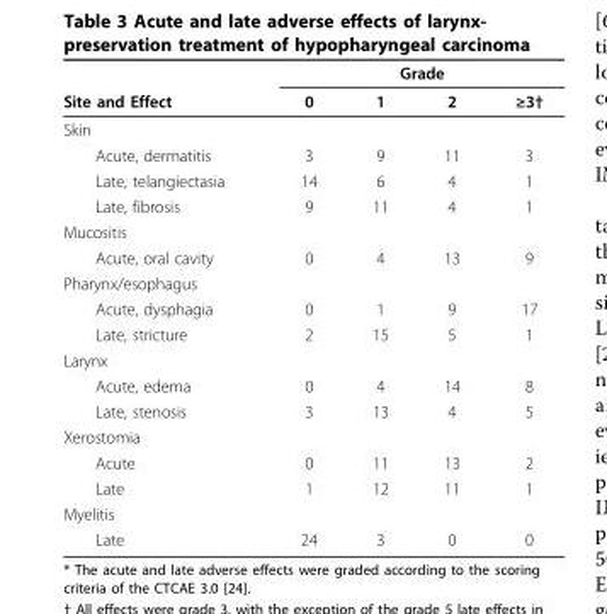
<table><thead><tr><td rowspan="2">Site and Effect</td><td colspan="4">Grade</td></tr><tr><td>0</td><td>1</td><td>2</td><td>≥3†</td></tr></thead><tbody><tr><td colspan="5">Skin</td></tr><tr><td>Acute, dermatitis</td><td>3</td><td>9</td><td>11</td><td>3</td></tr><tr><td>Late, telangiectasia</td><td>14</td><td>6</td><td>4</td><td>1</td></tr><tr><td>Late, fibrosis</td><td>9</td><td>11</td><td>4</td><td>1</td></tr><tr><td colspan="5">Mucositis</td></tr><tr><td>Acute, oral cavity</td><td>0</td><td>4</td><td>13</td><td>9</td></tr><tr><td colspan="5">Pharynx/esophagus</td></tr><tr><td>Acute, dysphagia</td><td>0</td><td>1</td><td>9</td><td>17</td></tr><tr><td>Late, stricture</td><td>2</td><td>15</td><td>5</td><td>1</td></tr><tr><td colspan="5">Larynx</td></tr><tr><td>Acute, edema</td><td>0</td><td>4</td><td>14</td><td>8</td></tr><tr><td>Late, stenosis</td><td>3</td><td>13</td><td>4</td><td>5</td></tr><tr><td colspan="5">Xerostomia</td></tr><tr><td>Acute</td><td>0</td><td>11</td><td>13</td><td>2</td></tr><tr><td>Late</td><td>1</td><td>12</td><td>11</td><td>1</td></tr><tr><td colspan="5">Myelitis</td></tr><tr><td>Late</td><td>24</td><td>3</td><td>0</td><td>0</td></tr></tbody></table>